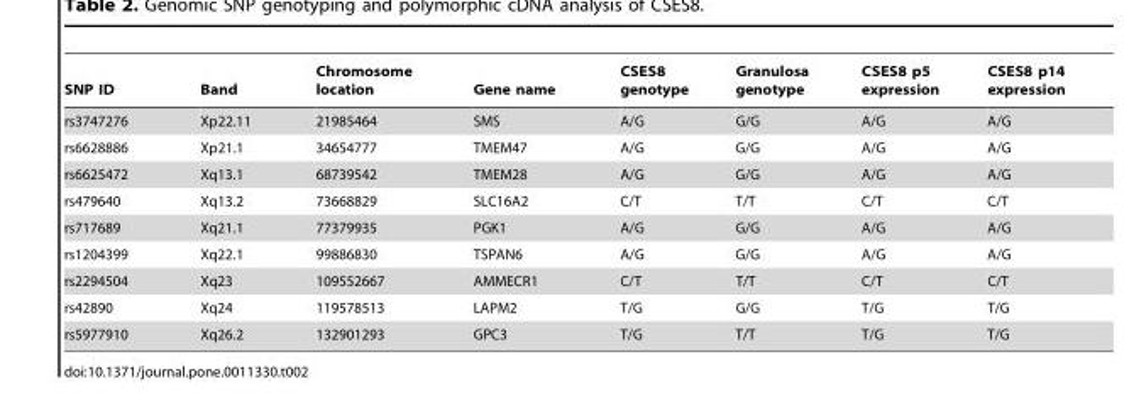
<table><thead><tr><td>SNP ID</td><td>Band</td><td>Chromosome location</td><td>Gene name</td><td>CSES8 genotype</td><td>Granulosa genotype</td><td>CSES8 p5 expression</td><td>CSES8 p14 expression</td></tr></thead><tbody><tr><td>rs3747276</td><td>Xp22.11</td><td>21985464</td><td>SMS</td><td>A/G</td><td>G/G</td><td>A/G</td><td>A/G</td></tr><tr><td>rs6628886</td><td>Xp21.1</td><td>34654777</td><td>TMEM47</td><td>A/G</td><td>G/G</td><td>A/G</td><td>A/G</td></tr><tr><td>rs6625472</td><td>Xq13.1</td><td>68739542</td><td>TMEM28</td><td>A/G</td><td>G/G</td><td>A/G</td><td>A/G</td></tr><tr><td>rs479640</td><td>Xq13.2</td><td>73668829</td><td>SLC16A2</td><td>C/T</td><td>T/T</td><td>C/T</td><td>C/T</td></tr><tr><td>rs717689</td><td>Xq21.1</td><td>77379935</td><td>PGK1</td><td>A/G</td><td>G/G</td><td>A/G</td><td>A/G</td></tr><tr><td>rs1204399</td><td>Xq22.1</td><td>99886830</td><td>TSPAN6</td><td>A/G</td><td>G/G</td><td>A/G</td><td>A/G</td></tr><tr><td>rs2294504</td><td>Xq23</td><td>109552667</td><td>AMMECR1</td><td>C/T</td><td>T/T</td><td>C/T</td><td>C/T</td></tr><tr><td>rs42890</td><td>Xq24</td><td>119578513</td><td>LAPM2</td><td>T/G</td><td>G/G</td><td>T/G</td><td>T/G</td></tr><tr><td>rs5977910</td><td>Xq26.2</td><td>132901293</td><td>GPC3</td><td>T/G</td><td>T/T</td><td>T/G</td><td>T/G</td></tr></tbody></table>